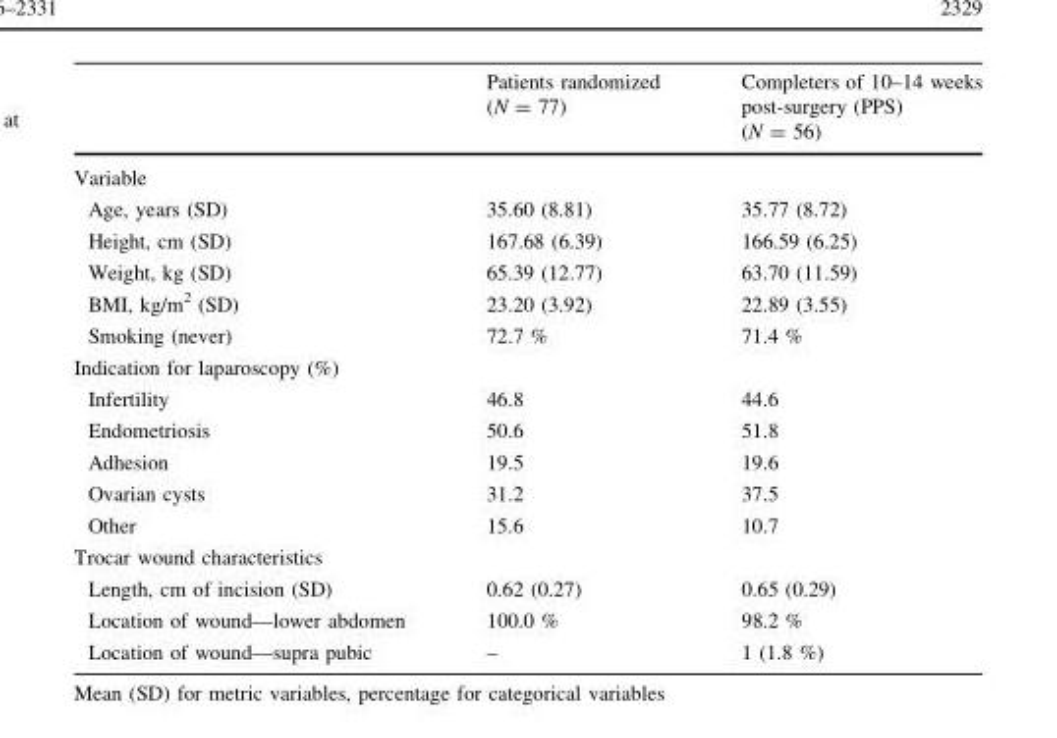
<table><thead><tr><td></td><td>Patients randomized (N = 77)</td><td>Completers of 10–14 weeks post-surgery (PPS) (N = 56)</td></tr></thead><tbody><tr><td colspan="3">Variable</td></tr><tr><td>Age, years (SD)</td><td>35.60 (8.81)</td><td>35.77 (8.72)</td></tr><tr><td>Height, cm (SD)</td><td>167.68 (6.39)</td><td>166.59 (6.25)</td></tr><tr><td>Weight, kg (SD)</td><td>65.39 (12.77)</td><td>63.70 (11.59)</td></tr><tr><td>BMI, kg/m<sup>2</sup> (SD)</td><td>23.20 (3.92)</td><td>22.89 (3.55)</td></tr><tr><td>Smoking (never)</td><td>72.7 %</td><td>71.4 %</td></tr><tr><td colspan="3">Indication for laparoscopy (%)</td></tr><tr><td>Infertility</td><td>46.8</td><td>44.6</td></tr><tr><td>Endometriosis</td><td>50.6</td><td>51.8</td></tr><tr><td>Adhesion</td><td>19.5</td><td>19.6</td></tr><tr><td>Ovarian cysts</td><td>31.2</td><td>37.5</td></tr><tr><td>Other</td><td>15.6</td><td>10.7</td></tr><tr><td colspan="3">Trocar wound characteristics</td></tr><tr><td>Length, cm of incision (SD)</td><td>0.62 (0.27)</td><td>0.65 (0.29)</td></tr><tr><td>Location of wound—lower abdomen</td><td>100.0 %</td><td>98.2 %</td></tr><tr><td>Location of wound—supra pubic</td><td>–</td><td>1 (1.8 %)</td></tr></tbody></table>